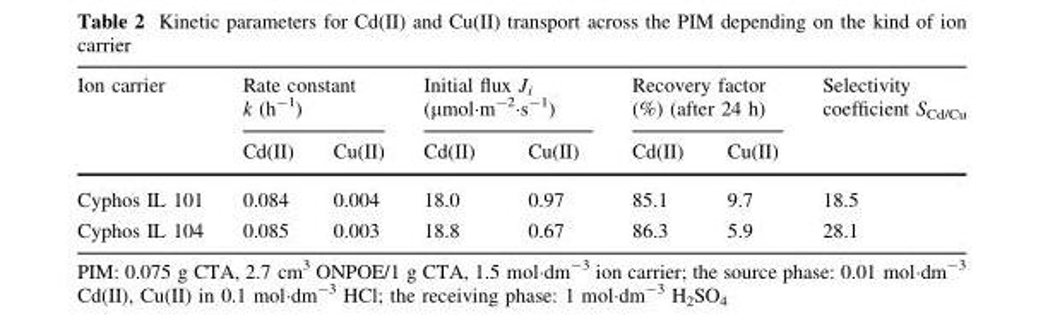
<table><thead><tr><td rowspan="2">Ion carrier</td><td colspan="2">Rate constant k (h<sup>-1</sup>)</td><td colspan="2">Initial flux J<sub>i</sub> (μmol·m<sup>-2</sup>·s<sup>-1</sup>)</td><td colspan="2">Recovery factor (%) (after 24 h)</td><td rowspan="2">Selectivity coefficient S<sub>Cd/Cu</sub></td></tr><tr><td>Cd(II)</td><td>Cu(II)</td><td>Cd(II)</td><td>Cu(II)</td><td>Cd(II)</td><td>Cu(II)</td></tr></thead><tbody><tr><td>Cyphos IL 101</td><td>0.084</td><td>0.004</td><td>18.0</td><td>0.97</td><td>85.1</td><td>9.7</td><td>18.5</td></tr><tr><td>Cyphos IL 104</td><td>0.085</td><td>0.003</td><td>18.8</td><td>0.67</td><td>86.3</td><td>5.9</td><td>28.1</td></tr></tbody></table>